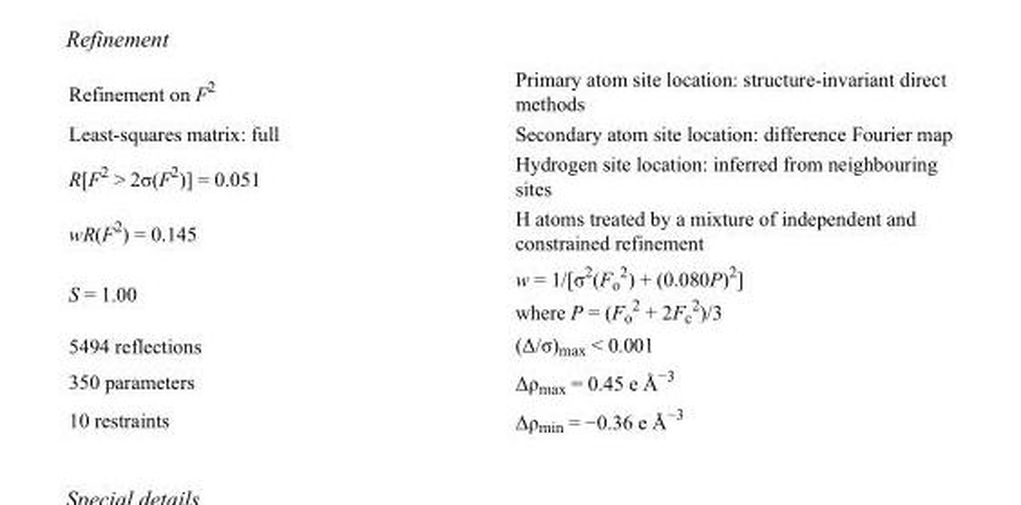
<table><tbody><tr><td>Refinement on F<sup>2</sup></td><td>Primary atom site location: structure-invariant direct methods</td></tr><tr><td>Least-squares matrix: full</td><td>Secondary atom site location: difference Fourier map</td></tr><tr><td>R[F<sup>2</sup> &gt; 2σ(F<sup>2</sup>)] = 0.051</td><td>Hydrogen site location: inferred from neighbouring sites</td></tr><tr><td>wR(F<sup>2</sup>) = 0.145</td><td>H atoms treated by a mixture of independent and constrained refinement</td></tr><tr><td>S = 1.00</td><td>w = 1/[σ<sup>2</sup>(F<sub>o</sub> <sup>2</sup>) + (0.080P)<sup>2</sup>] where P = (F<sub>o</sub> <sup>2</sup> + 2F<sub>c</sub> <sup>2</sup>)/3</td></tr><tr><td>5494 reflections</td><td>(Δ/σ)<sub>max</sub> &lt; 0.001</td></tr><tr><td>350 parameters</td><td>Δρ<sub>max</sub> = 0.45 e Å<sup>−3</sup></td></tr><tr><td>10 restraints</td><td>Δρ<sub>min</sub> = −0.36 e Å<sup>−3</sup></td></tr></tbody></table>